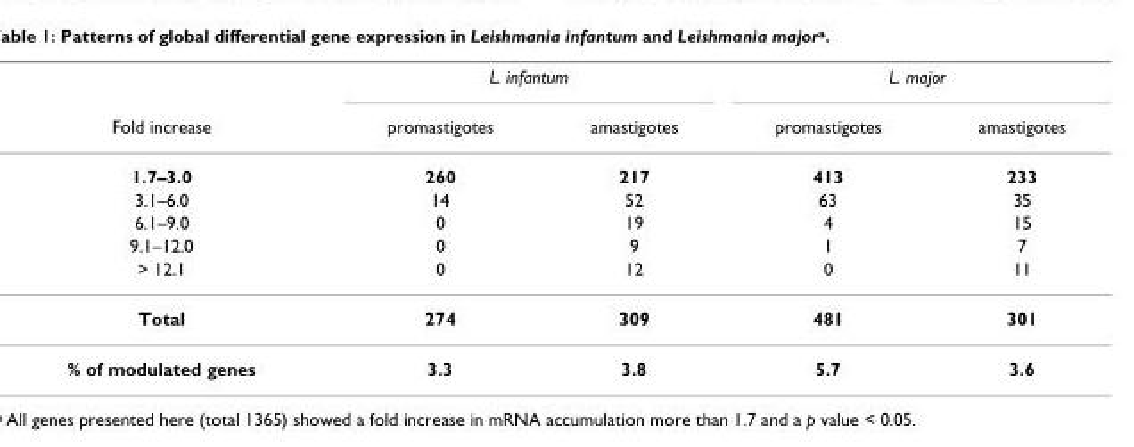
<table><thead><tr><td rowspan="2">Fold increase</td><td colspan="2">L. infantum</td><td colspan="2">L. major</td></tr><tr><td>promastigotes</td><td>amastigotes</td><td>promastigotes</td><td>amastigotes</td></tr></thead><tbody><tr><td>1.7–3.0</td><td>260</td><td>217</td><td>413</td><td>233</td></tr><tr><td>3.1–6.0</td><td>14</td><td>52</td><td>63</td><td>35</td></tr><tr><td>6.1–9.0</td><td>0</td><td>19</td><td>4</td><td>15</td></tr><tr><td>9.1–12.0</td><td>0</td><td>9</td><td>1</td><td>7</td></tr><tr><td>&gt; 12.1</td><td>0</td><td>12</td><td>0</td><td>11</td></tr><tr><td>Total</td><td>274</td><td>309</td><td>481</td><td>301</td></tr><tr><td>% of modulated genes</td><td>3.3</td><td>3.8</td><td>5.7</td><td>3.6</td></tr></tbody></table>